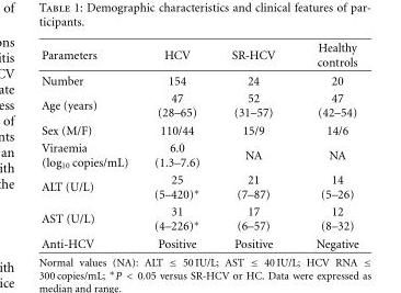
<table><thead><tr><td>Parameters</td><td>HCV</td><td>SR-HCV</td><td>Healthy controls</td></tr></thead><tbody><tr><td>Number</td><td>154</td><td>24</td><td>20</td></tr><tr><td>Age (years)</td><td>47 (28–65)</td><td>52 (31–57)</td><td>47 (42–54)</td></tr><tr><td>Sex (M/F)</td><td>110/44</td><td>15/9</td><td>14/6</td></tr><tr><td>Viraemia (log<sub>10</sub> copies/mL)</td><td>6.0 (1.3–7.6)</td><td>NA</td><td>NA</td></tr><tr><td>ALT (U/L)</td><td>25 (5–420)∗</td><td>21 (7–87)</td><td>14 (5–26)</td></tr><tr><td>AST (U/L)</td><td>31 (4–226)∗</td><td>17 (6–57)</td><td>12 (8–32)</td></tr><tr><td>Anti-HCV</td><td>Positive</td><td>Positive</td><td>Negative</td></tr></tbody></table>